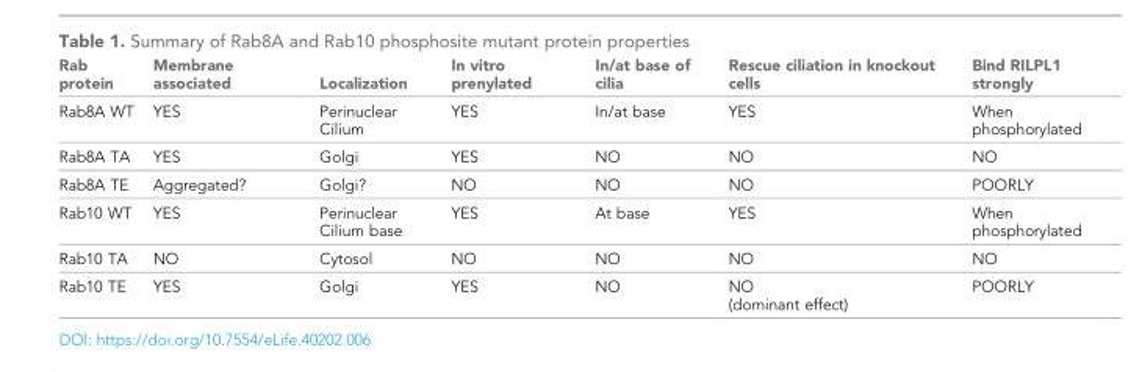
<table><thead><tr><td>Rab protein</td><td>Membrane associated</td><td>Localization</td><td>In vitro prenylated</td><td>In/at base of cilia</td><td>Rescue ciliation in knockout cells</td><td>Bind RILPL1 strongly</td></tr></thead><tbody><tr><td>Rab8A WT</td><td>YES</td><td>Perinuclear Cilium</td><td>YES</td><td>In/at base</td><td>YES</td><td>When phosphorylated</td></tr><tr><td>Rab8A TA</td><td>YES</td><td>Golgi</td><td>YES</td><td>NO</td><td>NO</td><td>NO</td></tr><tr><td>Rab8A TE</td><td>Aggregated?</td><td>Golgi?</td><td>NO</td><td>NO</td><td>NO</td><td>POORLY</td></tr><tr><td>Rab10 WT</td><td>YES</td><td>Perinuclear Cilium base</td><td>YES</td><td>At base</td><td>YES</td><td>When phosphorylated</td></tr><tr><td>Rab10 TA</td><td>NO</td><td>Cytosol</td><td>NO</td><td>NO</td><td>NO</td><td>NO</td></tr><tr><td>Rab10 TE</td><td>YES</td><td>Golgi</td><td>YES</td><td>NO</td><td>NO (dominant effect)</td><td>POORLY</td></tr></tbody></table>